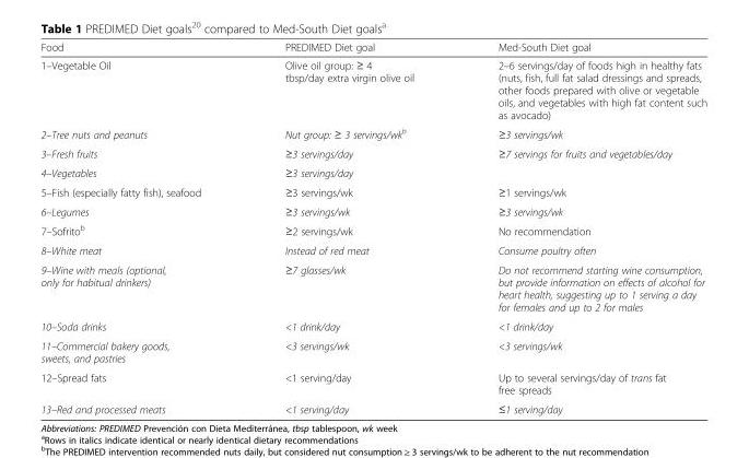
<table><thead><tr><td>Food</td><td>PREDIMED Diet goal</td><td>Med-South Diet goal</td></tr></thead><tbody><tr><td>1–Vegetable Oil</td><td>Olive oil group: ≥ 4 tbsp/day extra virgin olive oil</td><td>2–6 servings/day of foods high in healthy fats (nuts, fish, full fat salad dressings and spreads, other foods prepared with olive or vegetable oils, and vegetables with high fat content such as avocado)</td></tr><tr><td>2–Tree nuts and peanuts</td><td>Nut group: ≥ 3 servings/wk<sup>b</sup></td><td>≥3 servings/wk</td></tr><tr><td>3–Fresh fruits</td><td>≥3 servings/day</td><td rowspan="2">≥7 servings for fruits and vegetables/day</td></tr><tr><td>4–Vegetables</td><td>≥3 servings/day</td></tr><tr><td>5–Fish (especially fatty fish), seafood</td><td>≥3 servings/wk</td><td>≥1 servings/wk</td></tr><tr><td>6–Legumes</td><td>≥3 servings/wk</td><td>≥3 servings/wk</td></tr><tr><td>7–Sofritob</td><td>≥2 servings/wk</td><td>No recommendation</td></tr><tr><td>8–White meat</td><td>Instead of red meat</td><td>Consume poultry often</td></tr><tr><td>9–Wine with meals (optional, only for habitual drinkers)</td><td>≥7 glasses/wk</td><td>Do not recommend starting wine consumption, but provide information on effects of alcohol for heart health, suggesting up to 1 serving a day for females and up to 2 for males</td></tr><tr><td>10–Soda drinks</td><td>&lt;1 drink/day</td><td>&lt;1 drink/day</td></tr><tr><td>11–Commercial bakery goods, sweets, and pastries</td><td>&lt;3 servings/wk</td><td>&lt;3 servings/wk</td></tr><tr><td>12–Spread fats</td><td>&lt;1 serving/day</td><td>Up to several servings/day of trans fat free spreads</td></tr><tr><td>13–Red and processed meats</td><td>&lt;1 serving/day</td><td>≤1 serving/day</td></tr></tbody></table>